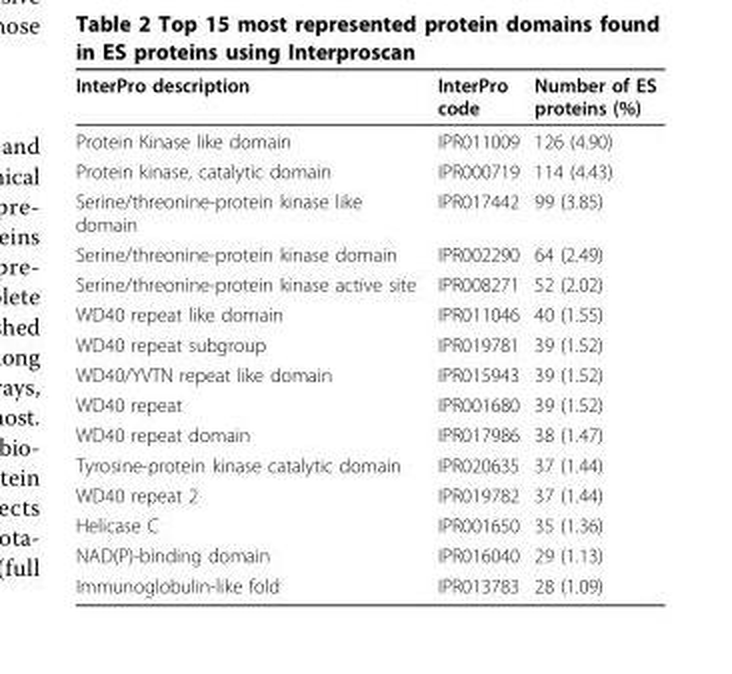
<table><thead><tr><td>InterPro description</td><td>InterPro code</td><td>Number of ES proteins (%)</td></tr></thead><tbody><tr><td>Protein Kinase like domain</td><td>IPR011009</td><td>126 (4.90)</td></tr><tr><td>Protein kinase, catalytic domain</td><td>IPR000719</td><td>114 (4.43)</td></tr><tr><td>Serine/threonine-protein kinase like domain</td><td>IPR017442</td><td>99 (3.85)</td></tr><tr><td>Serine/threonine-protein kinase domain</td><td>IPR002290</td><td>64 (2.49)</td></tr><tr><td>Serine/threonine-protein kinase active site</td><td>IPR008271</td><td>52 (2.02)</td></tr><tr><td>WD40 repeat like domain</td><td>IPR011046</td><td>40 (1.55)</td></tr><tr><td>WD40 repeat subgroup</td><td>IPR019781</td><td>39 (1.52)</td></tr><tr><td>WD40/YVTN repeat like domain</td><td>IPR015943</td><td>39 (1.52)</td></tr><tr><td>WD40 repeat</td><td>IPR001680</td><td>39 (1.52)</td></tr><tr><td>WD40 repeat domain</td><td>IPR017986</td><td>38 (1.47)</td></tr><tr><td>Tyrosine-protein kinase catalytic domain</td><td>IPR020635</td><td>37 (1.44)</td></tr><tr><td>WD40 repeat 2</td><td>IPR019782</td><td>37 (1.44)</td></tr><tr><td>Helicase C</td><td>IPR001650</td><td>35 (1.36)</td></tr><tr><td>NAD(P)-binding domain</td><td>IPR016040</td><td>29 (1.13)</td></tr><tr><td>Immunoglobulin-like fold</td><td>IPR013783</td><td>28 (1.09)</td></tr></tbody></table>